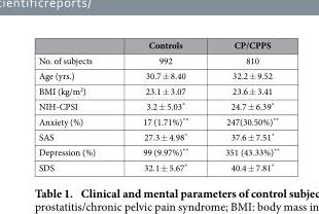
<table><thead><tr><td></td><td>Controls</td><td>CP/CPPS</td></tr></thead><tbody><tr><td>No. of subjects</td><td>992</td><td>810</td></tr><tr><td>Age (yrs.)</td><td>30.7 ± 8.40</td><td>32.2 ± 9.52</td></tr><tr><td>BMI (kg/m<sup>2</sup>)</td><td>23.1 ± 3.07</td><td>23.6 ± 3.41</td></tr><tr><td>NIH-CPSI</td><td>3.2 ± 5.03*</td><td>24.7 ± 6.39*</td></tr><tr><td>Anxiety (%)</td><td>17 (1.71%)**</td><td>247(30.50%)**</td></tr><tr><td>SAS</td><td>27.3 ± 4.98*</td><td>37.6 ± 7.51*</td></tr><tr><td>Depression (%)</td><td>99 (9.97%)**</td><td>351 (43.33%)**</td></tr><tr><td>SDS</td><td>32.1 ± 5.67*</td><td>40.4 ± 7.81*</td></tr></tbody></table>